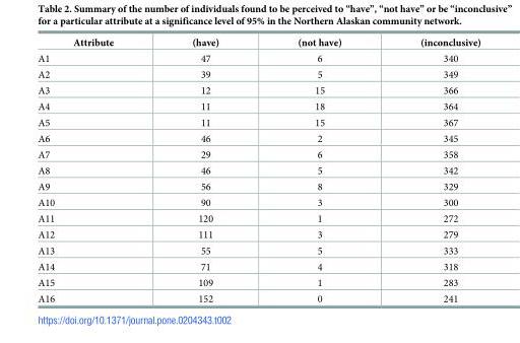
<table><thead><tr><td>Attribute</td><td>(have)</td><td>(not have)</td><td>(inconclusive)</td></tr></thead><tbody><tr><td>A1</td><td>47</td><td>6</td><td>340</td></tr><tr><td>A2</td><td>39</td><td>5</td><td>349</td></tr><tr><td>A3</td><td>12</td><td>15</td><td>366</td></tr><tr><td>A4</td><td>11</td><td>18</td><td>364</td></tr><tr><td>A5</td><td>11</td><td>15</td><td>367</td></tr><tr><td>A6</td><td>46</td><td>2</td><td>345</td></tr><tr><td>A7</td><td>29</td><td>6</td><td>358</td></tr><tr><td>A8</td><td>46</td><td>5</td><td>342</td></tr><tr><td>A9</td><td>56</td><td>8</td><td>329</td></tr><tr><td>A10</td><td>90</td><td>3</td><td>300</td></tr><tr><td>A11</td><td>120</td><td>1</td><td>272</td></tr><tr><td>A12</td><td>111</td><td>3</td><td>279</td></tr><tr><td>A13</td><td>55</td><td>5</td><td>333</td></tr><tr><td>A14</td><td>71</td><td>4</td><td>318</td></tr><tr><td>A15</td><td>109</td><td>1</td><td>283</td></tr><tr><td>A16</td><td>152</td><td>0</td><td>241</td></tr></tbody></table>